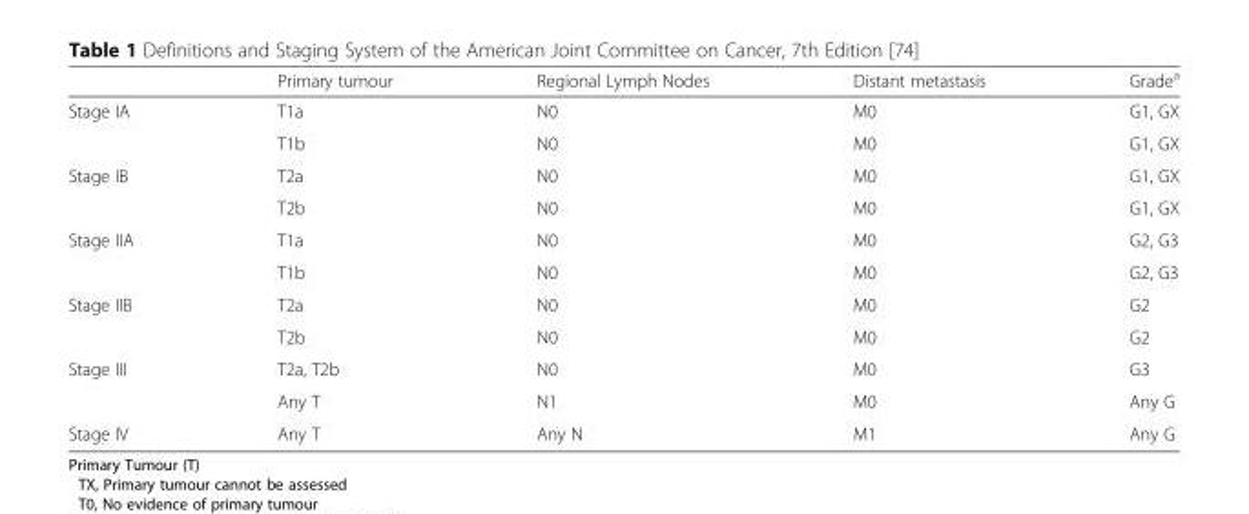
<table><thead><tr><td></td><td>Primary tumour</td><td>Regional Lymph Nodes</td><td>Distant metastasis</td><td>Grade<sup>a</sup></td></tr></thead><tbody><tr><td rowspan="2">Stage IA</td><td>T1a</td><td>N0</td><td>M0</td><td>G1, GX</td></tr><tr><td>T1b</td><td>N0</td><td>M0</td><td>G1, GX</td></tr><tr><td rowspan="2">Stage IB</td><td>T2a</td><td>N0</td><td>M0</td><td>G1, GX</td></tr><tr><td>T2b</td><td>N0</td><td>M0</td><td>G1, GX</td></tr><tr><td rowspan="2">Stage IIA</td><td>T1a</td><td>N0</td><td>M0</td><td>G2, G3</td></tr><tr><td>T1b</td><td>N0</td><td>M0</td><td>G2, G3</td></tr><tr><td rowspan="2">Stage IIB</td><td>T2a</td><td>N0</td><td>M0</td><td>G2</td></tr><tr><td>T2b</td><td>N0</td><td>M0</td><td>G2</td></tr><tr><td rowspan="2">Stage III</td><td>T2a, T2b</td><td>N0</td><td>M0</td><td>G3</td></tr><tr><td>Any T</td><td>N1</td><td>M0</td><td>Any G</td></tr><tr><td>Stage IV</td><td>Any T</td><td>Any N</td><td>M1</td><td>Any G</td></tr></tbody></table>